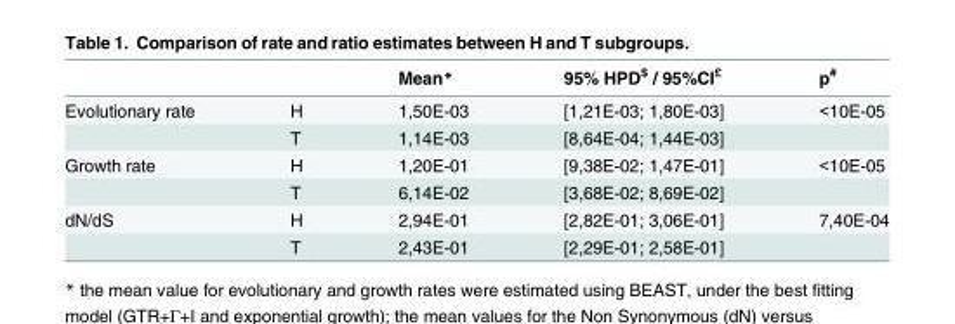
<table><thead><tr><td></td><td></td><td>Mean*</td><td>95% HPD<sup>$</sup> / 95%CI<sup>£</sup></td><td>p<sup>#</sup></td></tr></thead><tbody><tr><td rowspan="2">Evolutionary rate</td><td>H</td><td>1,50E-03</td><td>[1,21E-03; 1,80E-03]</td><td>&lt;10E-05</td></tr><tr><td>T</td><td>1,14E-03</td><td>[8,64E-04; 1,44E-03]</td><td></td></tr><tr><td rowspan="2">Growth rate</td><td>H</td><td>1,20E-01</td><td>[9,38E-02; 1,47E-01]</td><td>&lt;10E-05</td></tr><tr><td>T</td><td>6,14E-02</td><td>[3,68E-02; 8,69E-02]</td><td></td></tr><tr><td rowspan="2">dN/dS</td><td>H</td><td>2,94E-01</td><td>[2,82E-01; 3,06E-01]</td><td>7,40E-04</td></tr><tr><td>T</td><td>2,43E-01</td><td>[2,29E-01; 2,58E-01]</td><td></td></tr></tbody></table>